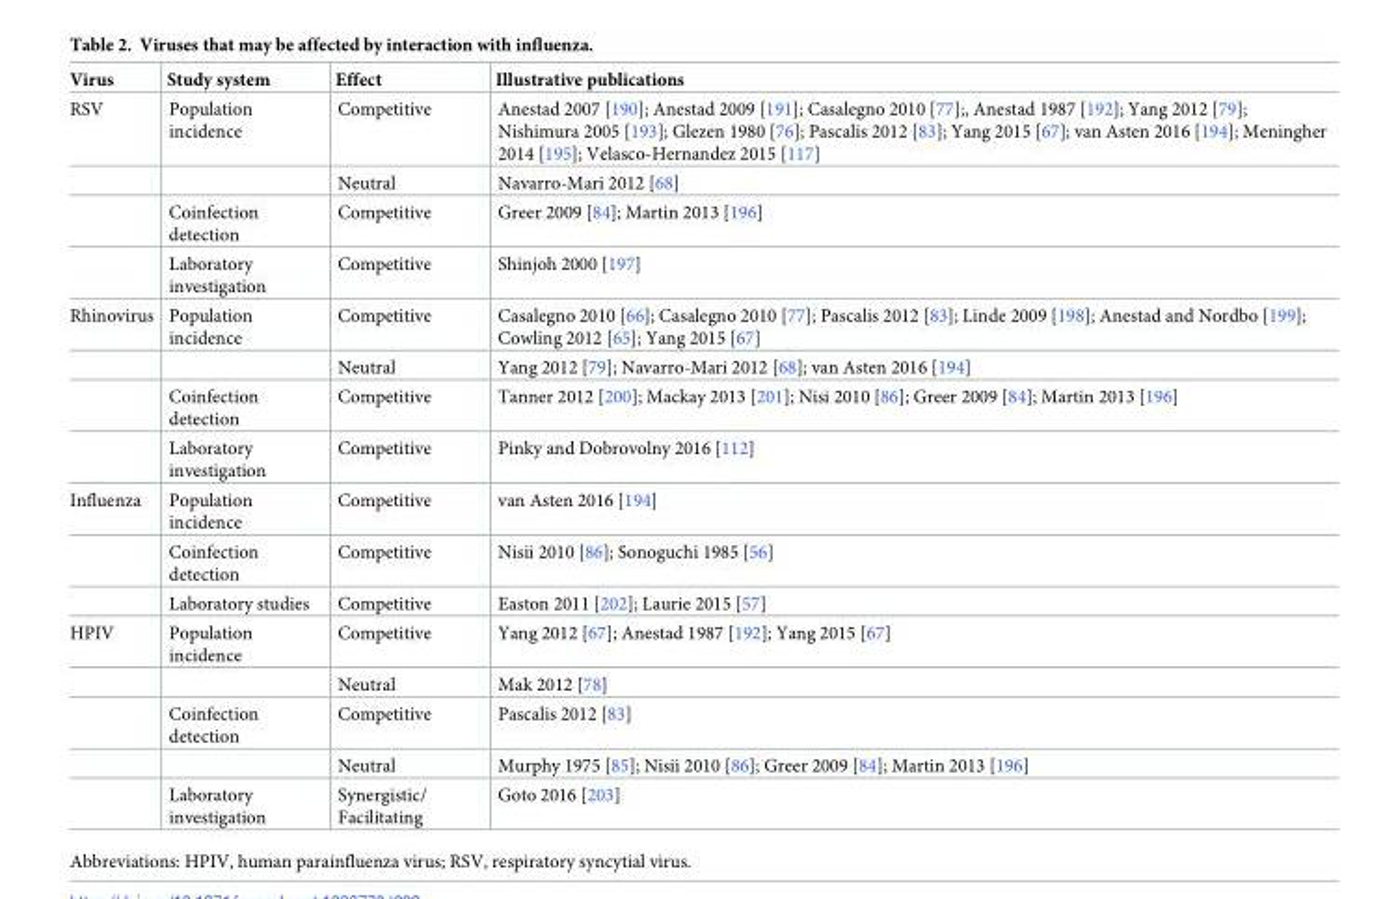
<table><thead><tr><td>Virus</td><td>Study system</td><td>Effect</td><td>Illustrative publications</td></tr></thead><tbody><tr><td rowspan="4">RSV</td><td>Population incidence</td><td>Competitive</td><td>Anestad 2007 [190]; Anestad 2009 [191]; Casalegno 2010 [77];, Anestad 1987 [192]; Yang 2012 [79]; Nishimura 2005 [193]; Glezen 1980 [76]; Pascalis 2012 [83]; Yang 2015 [67]; van Asten 2016 [194]; Meningher 2014 [195]; Velasco-Hernandez 2015 [117]</td></tr><tr><td></td><td>Neutral</td><td>Navarro-Mari 2012 [68]</td></tr><tr><td>Coinfection detection</td><td>Competitive</td><td>Greer 2009 [84]; Martin 2013 [196]</td></tr><tr><td>Laboratory investigation</td><td>Competitive</td><td>Shinjoh 2000 [197]</td></tr><tr><td rowspan="4">Rhinovirus</td><td>Population incidence</td><td>Competitive</td><td>Casalegno 2010 [66]; Casalegno 2010 [77]; Pascalis 2012 [83]; Linde 2009 [198]; Anestad and Nordbo [199]; Cowling 2012 [65]; Yang 2015 [67]</td></tr><tr><td></td><td>Neutral</td><td>Yang 2012 [79]; Navarro-Mari 2012 [68]; van Asten 2016 [194]</td></tr><tr><td>Coinfection detection</td><td>Competitive</td><td>Tanner 2012 [200]; Mackay 2013 [201]; Nisi 2010 [86]; Greer 2009 [84]; Martin 2013 [196]</td></tr><tr><td>Laboratory investigation</td><td>Competitive</td><td>Pinky and Dobrovolny 2016 [112]</td></tr><tr><td rowspan="3">Influenza</td><td>Population incidence</td><td>Competitive</td><td>van Asten 2016 [194]</td></tr><tr><td>Coinfection detection</td><td>Competitive</td><td>Nisii 2010 [86]; Sonoguchi 1985 [56]</td></tr><tr><td>Laboratory studies</td><td>Competitive</td><td>Easton 2011 [202]; Laurie 2015 [57]</td></tr><tr><td rowspan="5">HPIV</td><td>Population incidence</td><td>Competitive</td><td>Yang 2012 [67]; Anestad 1987 [192]; Yang 2015 [67]</td></tr><tr><td></td><td>Neutral</td><td>Mak 2012 [78]</td></tr><tr><td>Coinfection detection</td><td>Competitive</td><td>Pascalis 2012 [83]</td></tr><tr><td></td><td>Neutral</td><td>Murphy 1975 [85]; Nisii 2010 [86]; Greer 2009 [84]; Martin 2013 [196]</td></tr><tr><td>Laboratory investigation</td><td>Synergistic/ Facilitating</td><td>Goto 2016 [203]</td></tr></tbody></table>